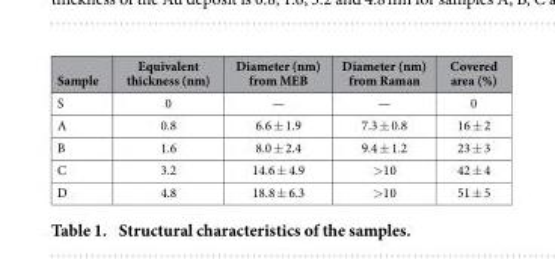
<table><thead><tr><td>Sample</td><td>Equivalent thickness (nm)</td><td>Diameter (nm) from MEB</td><td>Diameter (nm) from Raman</td><td>Covered area (%)</td></tr></thead><tbody><tr><td>S</td><td>0</td><td>—</td><td>—</td><td>0</td></tr><tr><td>A</td><td>0.8</td><td>6.6 ± 1.9</td><td>7.3 ± 0.8</td><td>16 ± 2</td></tr><tr><td>B</td><td>1.6</td><td>8.0 ± 2.4</td><td>9.4 ± 1.2</td><td>23 ± 3</td></tr><tr><td>C</td><td>3.2</td><td>14.6 ± 4.9</td><td>&gt; 10</td><td>42 ± 4</td></tr><tr><td>D</td><td>4.8</td><td>18.8 ± 6.3</td><td>&gt; 10</td><td>51 ± 5</td></tr></tbody></table>